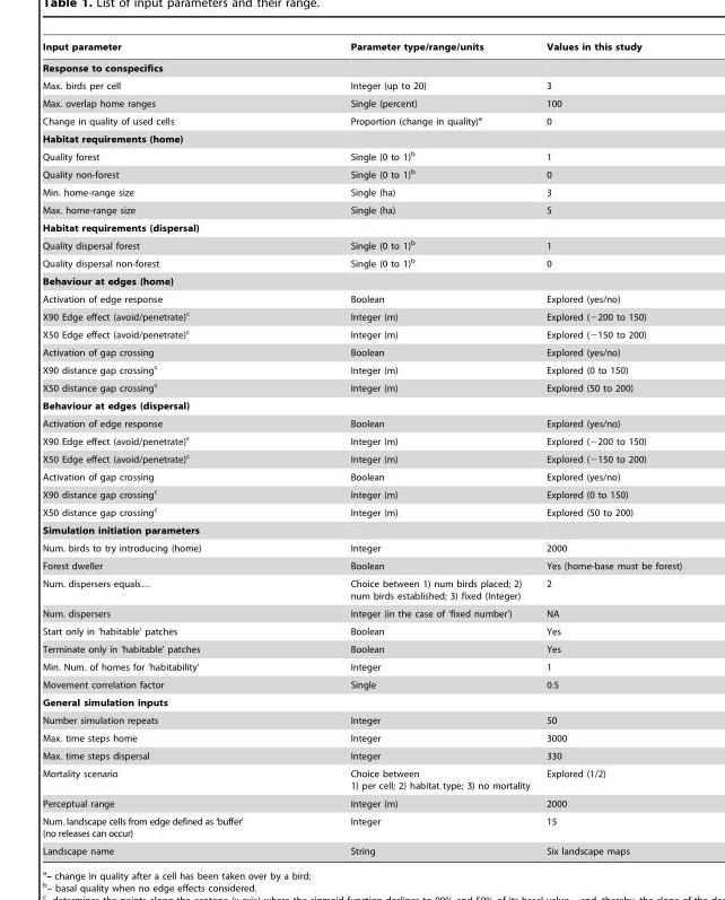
<table><thead><tr><td>Input parameter</td><td>Parameter type/range/units</td><td>Values in this study</td></tr></thead><tbody><tr><td colspan="3">Response to conspecifics</td></tr><tr><td>Max. birds per cell</td><td>Integer (up to 20)</td><td>3</td></tr><tr><td>Max. overlap home ranges</td><td>Single (percent)</td><td>100</td></tr><tr><td>Change in quality of used cells</td><td>Proportion (change in quality)<sup>a</sup></td><td>0</td></tr><tr><td colspan="3">Habitat requirements (home)</td></tr><tr><td>Quality forest</td><td>Single (0 to 1)<sup>b</sup></td><td>1</td></tr><tr><td>Quality non-forest</td><td>Single (0 to 1)<sup>b</sup></td><td>0</td></tr><tr><td>Min. home-range size</td><td>Single (ha)</td><td>3</td></tr><tr><td>Max. home-range size</td><td>Single (ha)</td><td>5</td></tr><tr><td colspan="3">Habitat requirements (dispersal)</td></tr><tr><td>Quality dispersal forest</td><td>Single (0 to 1)<sup>b</sup></td><td>1</td></tr><tr><td>Quality dispersal non-forest</td><td>Single (0 to 1)<sup>b</sup></td><td>0</td></tr><tr><td colspan="3">Behaviour at edges (home)</td></tr><tr><td>Activation of edge response</td><td>Boolean</td><td>Explored (yes/no)</td></tr><tr><td>X90 Edge effect (avoid/penetrate)<sup>c</sup></td><td>Integer (m)</td><td>Explored (−200 to 150)</td></tr><tr><td>X50 Edge effect (avoid/penetrate)<sup>c</sup></td><td>Integer (m)</td><td>Explored (−150 to 200)</td></tr><tr><td>Activation of gap crossing</td><td>Boolean</td><td>Explored (yes/no)</td></tr><tr><td>X90 distance gap crossing<sup>c</sup></td><td>Integer (m)</td><td>Explored (0 to 150)</td></tr><tr><td>X50 distance gap crossing<sup>c</sup></td><td>Integer (m)</td><td>Explored (50 to 200)</td></tr><tr><td colspan="3">Behaviour at edges (dispersal)</td></tr><tr><td>Activation of edge response</td><td>Boolean</td><td>Explored (yes/no)</td></tr><tr><td>X90 Edge effect (avoid/penetrate)<sup>c</sup></td><td>Integer (m)</td><td>Explored (−200 to 150)</td></tr><tr><td>X50 Edge effect (avoid/penetrate)<sup>c</sup></td><td>Integer (m)</td><td>Explored (−150 to 200)</td></tr><tr><td>Activation of gap crossing</td><td>Boolean</td><td>Explored (yes/no)</td></tr><tr><td>X90 distance gap crossing<sup>c</sup></td><td>Integer (m)</td><td>Explored (0 to 150)</td></tr><tr><td>X50 distance gap crossing<sup>c</sup></td><td>Integer (m)</td><td>Explored (50 to 200)</td></tr><tr><td colspan="3">Simulation initiation parameters</td></tr><tr><td>Num. birds to try introducing (home)</td><td>Integer</td><td>2000</td></tr><tr><td>Forest dweller</td><td>Boolean</td><td>Yes (home-base must be forest)</td></tr><tr><td>Num. dispersers equals…</td><td>Choice between 1) num birds placed; 2) num birds established; 3) fixed (Integer)</td><td>2</td></tr><tr><td>Num. dispersers</td><td>Integer (in the case of ‘fixed number’)</td><td>NA</td></tr><tr><td>Start only in ‘habitable’ patches</td><td>Boolean</td><td>Yes</td></tr><tr><td>Terminate only in ‘habitable’ patches</td><td>Boolean</td><td>Yes</td></tr><tr><td>Min. Num. of homes for ‘habitability’</td><td>Integer</td><td>1</td></tr><tr><td>Movement correlation factor</td><td>Single</td><td>0.5</td></tr><tr><td colspan="3">General simulation inputs</td></tr><tr><td>Number simulation repeats</td><td>Integer</td><td>50</td></tr><tr><td>Max. time steps home</td><td>Integer</td><td>3000</td></tr><tr><td>Max. time steps dispersal</td><td>Integer</td><td>330</td></tr><tr><td>Mortality scenario</td><td>Choice between 1) per cell; 2) habitat type; 3) no mortality</td><td>Explored (1/2)</td></tr><tr><td>Perceptual range</td><td>Integer (m)</td><td>2000</td></tr><tr><td>Num. landscape cells from edge defined as ‘buffer’ (no releases can occur)</td><td>Integer</td><td>15</td></tr><tr><td>Landscape name</td><td>String</td><td>Six landscape maps</td></tr></tbody></table>